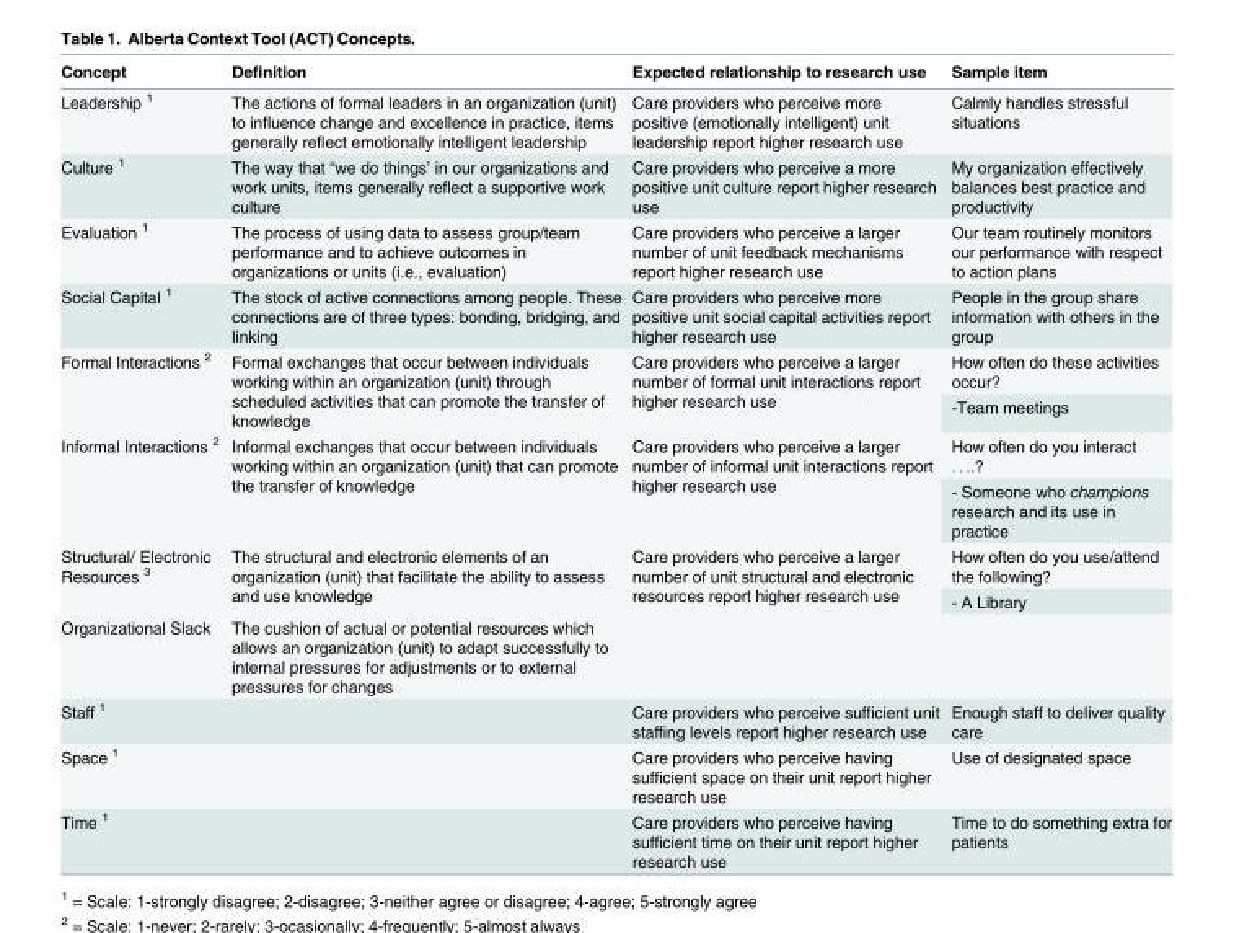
<table><thead><tr><td>Concept</td><td>Definition</td><td>Expected relationship to research use</td><td>Sample item</td></tr></thead><tbody><tr><td>Leadership <sup>1</sup></td><td>The actions of formal leaders in an organization (unit) to influence change and excellence in practice, items generally reflect emotionally intelligent leadership</td><td>Care providers who perceive more positive (emotionally intelligent) unit leadership report higher research use</td><td>Calmly handles stressful situations</td></tr><tr><td>Culture <sup>1</sup></td><td>The way that “we do things’ in our organizations and work units, items generally reflect a supportive work culture</td><td>Care providers who perceive a more positive unit culture report higher research use</td><td>My organization effectively balances best practice and productivity</td></tr><tr><td>Evaluation <sup>1</sup></td><td>The process of using data to assess group/team performance and to achieve outcomes in organizations or units (i.e., evaluation)</td><td>Care providers who perceive a larger number of unit feedback mechanisms report higher research use</td><td>Our team routinely monitors our performance with respect to action plans</td></tr><tr><td>Social Capital <sup>1</sup></td><td>The stock of active connections among people. These connections are of three types: bonding, bridging, and linking</td><td>Care providers who perceive more positive unit social capital activities report higher research use</td><td>People in the group share information with others in the group</td></tr><tr><td rowspan="2">Formal Interactions <sup>2</sup></td><td rowspan="2">Formal exchanges that occur between individuals working within an organization (unit) through scheduled activities that can promote the transfer of knowledge</td><td rowspan="2">Care providers who perceive a larger number of formal unit interactions report higher research use</td><td>How often do these activities occur?</td></tr><tr><td>-Team meetings</td></tr><tr><td rowspan="2">Informal Interactions <sup>2</sup></td><td rowspan="2">Informal exchanges that occur between individuals working within an organization (unit) that can promote the transfer of knowledge</td><td rowspan="2">Care providers who perceive a larger number of informal unit interactions report higher research use</td><td>How often do you interact . . ..?</td></tr><tr><td>- Someone who champions research and its use in practice</td></tr><tr><td rowspan="2">Structural/ Electronic Resources <sup>3</sup></td><td rowspan="2">The structural and electronic elements of an organization (unit) that facilitate the ability to assess and use knowledge</td><td rowspan="2">Care providers who perceive a larger number of unit structural and electronic resources report higher research use</td><td>How often do you use/attend the following?</td></tr><tr><td>- A Library</td></tr><tr><td>Organizational Slack</td><td>The cushion of actual or potential resources which allows an organization (unit) to adapt successfully to internal pressures for adjustments or to external pressures for changes</td><td></td><td></td></tr><tr><td>Staff <sup>1</sup></td><td></td><td>Care providers who perceive sufficient unit staffing levels report higher research use</td><td>Enough staff to deliver quality care</td></tr><tr><td>Space <sup>1</sup></td><td></td><td>Care providers who perceive having sufficient space on their unit report higher research use</td><td>Use of designated space</td></tr><tr><td>Time <sup>1</sup></td><td></td><td>Care providers who perceive having sufficient time on their unit report higher research use</td><td>Time to do something extra for patients</td></tr></tbody></table>